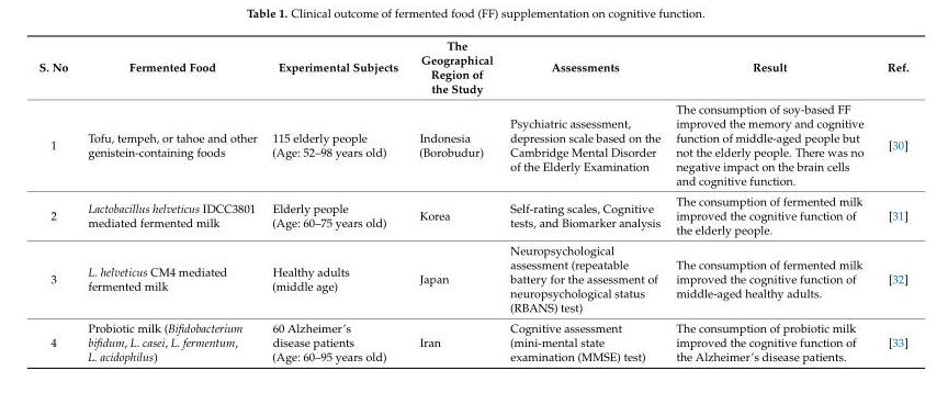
<table><thead><tr><td>S. No</td><td>Fermented Food</td><td>Experimental Subjects</td><td>The Geographical Region of the Study</td><td>Assessments</td><td>Result</td><td>Ref.</td></tr></thead><tbody><tr><td>1</td><td>Tofu, tempeh, or tahoe and other genistein-containing foods</td><td>115 elderly people (Age: 52–98 years old)</td><td>Indonesia (Borobudur)</td><td>Psychiatric assessment, depression scale based on the Cambridge Mental Disorder of the Elderly Examination</td><td>The consumption of soy-based FF improved the memory and cognitive function of middle-aged people but not the elderly people. There was no negative impact on the brain cells and cognitive function.</td><td>[30]</td></tr><tr><td>2</td><td>Lactobacillus helveticus IDCC3801 mediated fermented milk</td><td>Elderly people (Age: 60–75 years old)</td><td>Korea</td><td>Self-rating scales, Cognitive tests, and Biomarker analysis</td><td>The consumption of fermented milk improved the cognitive function of the elderly people.</td><td>[31]</td></tr><tr><td>3</td><td>L. helveticus CM4 mediated fermented milk</td><td>Healthy adults (middle age)</td><td>Japan</td><td>Neuropsychological assessment (repeatable battery for the assessment of neuropsychological status (RBANS) test)</td><td>The consumption of fermented milk improved the cognitive function of middle-aged healthy adults.</td><td>[32]</td></tr><tr><td>4</td><td>Probiotic milk (Bifidobacterium bifidum, L. casei, L. fermentum, L. acidophilus)</td><td>60 Alzheimer’s disease patients (Age: 60–95 years old)</td><td>Iran</td><td>Cognitive assessment (mini-mental state examination (MMSE) test)</td><td>The consumption of probiotic milk improved the cognitive function of the Alzheimer’s disease patients.</td><td>[33]</td></tr></tbody></table>